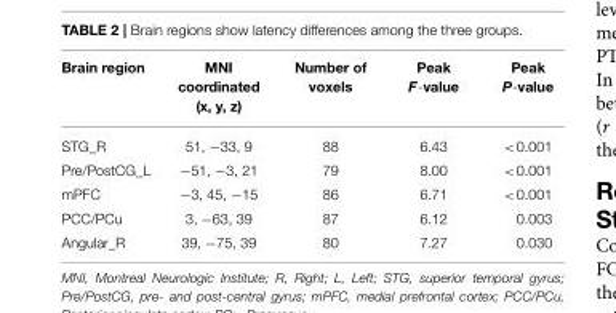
<table><thead><tr><td>Brain region</td><td>MNI coordinated (x, y, z)</td><td>Number of voxels</td><td>Peak F-value</td><td>Peak P-value</td></tr></thead><tbody><tr><td>STG_R</td><td>51, −33, 9</td><td>88</td><td>6.43</td><td>&lt;0.001</td></tr><tr><td>Pre/PostCG_L</td><td>−51, −3, 21</td><td>79</td><td>8.00</td><td>&lt;0.001</td></tr><tr><td>mPFC</td><td>−3, 45, −15</td><td>86</td><td>6.71</td><td>&lt;0.001</td></tr><tr><td>PCC/PCu</td><td>3, −63, 39</td><td>87</td><td>6.12</td><td>0.003</td></tr><tr><td>Angular_R</td><td>39, −75, 39</td><td>80</td><td>7.27</td><td>0.030</td></tr></tbody></table>